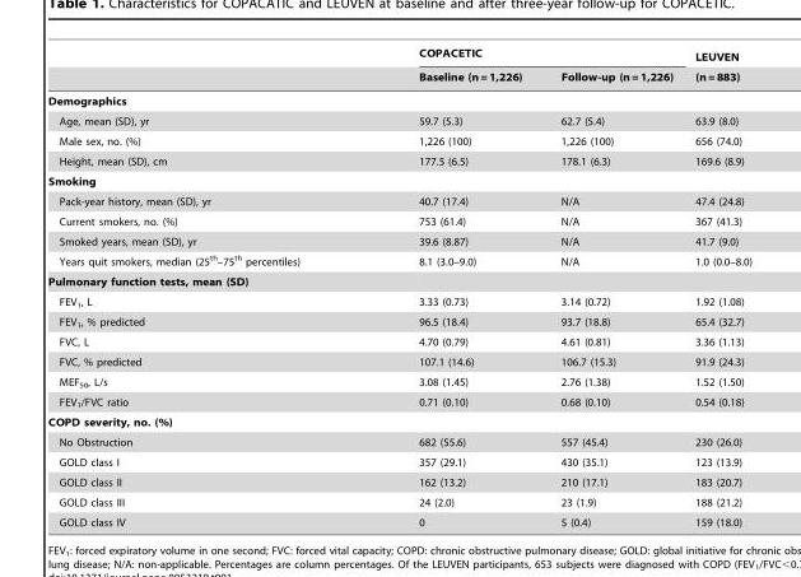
<table><thead><tr><td rowspan="2"></td><td colspan="2">COPACETIC</td><td rowspan="2">LEUVEN (n = 883)</td></tr><tr><td>Baseline (n = 1,226)</td><td>Follow-up (n = 1,226)</td></tr></thead><tbody><tr><td colspan="4">Demographics</td></tr><tr><td>Age, mean (SD), yr</td><td>59.7 (5.3)</td><td>62.7 (5.4)</td><td>63.9 (8.0)</td></tr><tr><td>Male sex, no. (%)</td><td>1,226 (100)</td><td>1,226 (100)</td><td>656 (74.0)</td></tr><tr><td>Height, mean (SD), cm</td><td>177.5 (6.5)</td><td>178.1 (6.3)</td><td>169.6 (8.9)</td></tr><tr><td colspan="4">Smoking</td></tr><tr><td>Pack-year history, mean (SD), yr</td><td>40.7 (17.4)</td><td>N/A</td><td>47.4 (24.8)</td></tr><tr><td>Current smokers, no. (%)</td><td>753 (61.4)</td><td>N/A</td><td>367 (41.3)</td></tr><tr><td>Smoked years, mean (SD), yr</td><td>39.6 (8.87)</td><td>N/A</td><td>41.7 (9.0)</td></tr><tr><td>Years quit smokers, median (25<sup>th</sup>–75<sup>th</sup> percentiles)</td><td>8.1 (3.0–9.0)</td><td>N/A</td><td>1.0 (0.0–8.0)</td></tr><tr><td colspan="4">Pulmonary function tests, mean (SD)</td></tr><tr><td>FEV<sub>1</sub>, L</td><td>3.33 (0.73)</td><td>3.14 (0.72)</td><td>1.92 (1.08)</td></tr><tr><td>FEV<sub>1</sub>, % predicted</td><td>96.5 (18.4)</td><td>93.7 (18.8)</td><td>65.4 (32.7)</td></tr><tr><td>FVC, L</td><td>4.70 (0.79)</td><td>4.61 (0.81)</td><td>3.36 (1.13)</td></tr><tr><td>FVC, % predicted</td><td>107.1 (14.6)</td><td>106.7 (15.3)</td><td>91.9 (24.3)</td></tr><tr><td>MEF<sub>50</sub>, L/s</td><td>3.08 (1.45)</td><td>2.76 (1.38)</td><td>1.52 (1.50)</td></tr><tr><td>FEV<sub>1</sub>/FVC ratio</td><td>0.71 (0.10)</td><td>0.68 (0.10)</td><td>0.54 (0.18)</td></tr><tr><td colspan="4">COPD severity, no. (%)</td></tr><tr><td>No Obstruction</td><td>682 (55.6)</td><td>557 (45.4)</td><td>230 (26.0)</td></tr><tr><td>GOLD class I</td><td>357 (29.1)</td><td>430 (35.1)</td><td>123 (13.9)</td></tr><tr><td>GOLD class II</td><td>162 (13.2)</td><td>210 (17.1)</td><td>183 (20.7)</td></tr><tr><td>GOLD class III</td><td>24 (2.0)</td><td>23 (1.9)</td><td>188 (21.2)</td></tr><tr><td>GOLD class IV</td><td>0</td><td>5 (0.4)</td><td>159 (18.0)</td></tr></tbody></table>